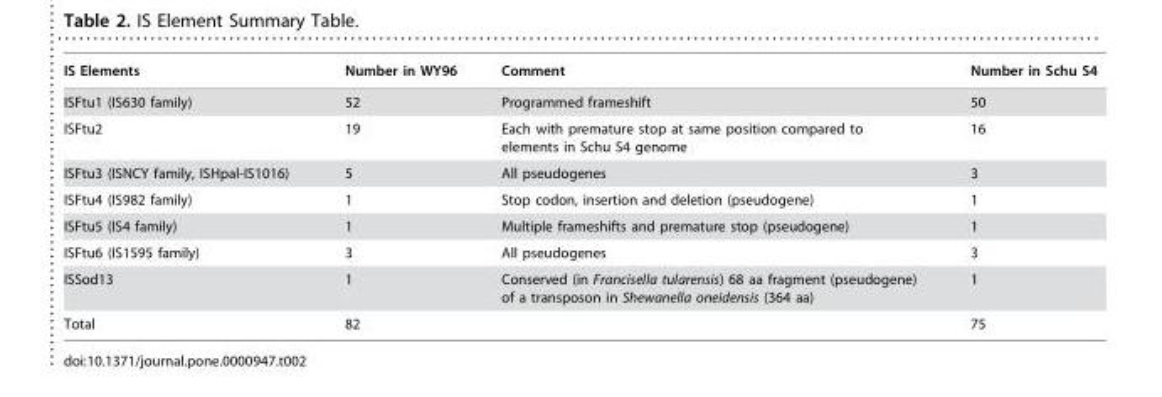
<table><thead><tr><td>IS Elements</td><td>Number in WY96</td><td>Comment</td><td>Number in Schu S4</td></tr></thead><tbody><tr><td>ISFtu1 (IS630 family)</td><td>52</td><td>Programmed frameshift</td><td>50</td></tr><tr><td>ISFtu2</td><td>19</td><td>Each with premature stop at same position compared to elements in Schu S4 genome</td><td>16</td></tr><tr><td>ISFtu3 (ISNCY family, ISHpal-IS1016)</td><td>5</td><td>All pseudogenes</td><td>3</td></tr><tr><td>ISFtu4 (IS982 family)</td><td>1</td><td>Stop codon, insertion and deletion (pseudogene)</td><td>1</td></tr><tr><td>ISFtu5 (IS4 family)</td><td>1</td><td>Multiple frameshifts and premature stop (pseudogene)</td><td>1</td></tr><tr><td>ISFtu6 (IS1595 family)</td><td>3</td><td>All pseudogenes</td><td>3</td></tr><tr><td>ISSod13</td><td>1</td><td>Conserved (in Francisella tularensis) 68 aa fragment (pseudogene) of a transposon in Shewanella oneidensis (364 aa)</td><td>1</td></tr><tr><td>Total</td><td>82</td><td></td><td>75</td></tr></tbody></table>